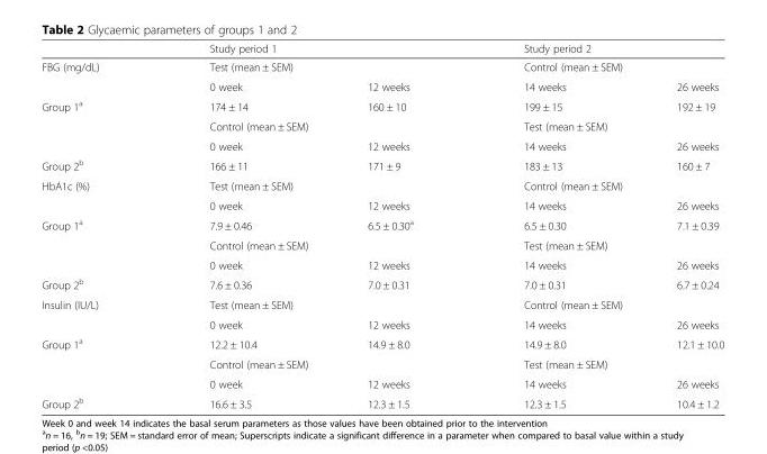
<table><thead><tr><td rowspan="3">FBG (mg/dL)</td><td rowspan="2" colspan="2">Study period 1 Test (mean ± SEM)</td><td rowspan="2" colspan="2">Study period 2 Control (mean ± SEM)</td></tr><tr></tr><tr><td>0 week</td><td>12 weeks</td><td>14 weeks</td><td>26 weeks</td></tr></thead><tbody><tr><td rowspan="3">Group 1<sup>a</sup></td><td>174 ± 14</td><td>160 ± 10</td><td>199 ± 15</td><td>192 ± 19</td></tr><tr><td colspan="2">Control (mean ± SEM)</td><td colspan="2">Test (mean ± SEM)</td></tr><tr><td>0 week</td><td>12 weeks</td><td>14 weeks</td><td>26 weeks</td></tr><tr><td>Group 2<sup>b</sup></td><td>166 ± 11</td><td>171 ± 9</td><td>183 ± 13</td><td>160 ± 7</td></tr><tr><td rowspan="2">HbA1c (%)</td><td colspan="2">Test (mean ± SEM)</td><td colspan="2">Control (mean ± SEM)</td></tr><tr><td>0 week</td><td>12 weeks</td><td>14 weeks</td><td>26 weeks</td></tr><tr><td rowspan="3">Group 1<sup>a</sup></td><td>7.9 ± 0.46</td><td>6.5 ± 0.30<sup>a</sup></td><td>6.5 ± 0.30</td><td>7.1 ± 0.39</td></tr><tr><td colspan="2">Control (mean ± SEM)</td><td colspan="2">Test (mean ± SEM)</td></tr><tr><td>0 week</td><td>12 weeks</td><td>14 weeks</td><td>26 weeks</td></tr><tr><td>Group 2<sup>b</sup></td><td>7.6 ± 0.36</td><td>7.0 ± 0.31</td><td>7.0 ± 0.31</td><td>6.7 ± 0.24</td></tr><tr><td rowspan="2">Insulin (IU/L)</td><td colspan="2">Test (mean ± SEM)</td><td colspan="2">Control (mean ± SEM)</td></tr><tr><td>0 week</td><td>12 weeks</td><td>14 weeks</td><td>26 weeks</td></tr><tr><td rowspan="3">Group 1<sup>a</sup></td><td>12.2 ± 10.4</td><td>14.9 ± 8.0</td><td>14.9 ± 8.0</td><td>12.1 ± 10.0</td></tr><tr><td colspan="2">Control (mean ± SEM)</td><td colspan="2">Test (mean ± SEM)</td></tr><tr><td>0 week</td><td>12 weeks</td><td>14 weeks</td><td>26 weeks</td></tr><tr><td>Group 2<sup>b</sup></td><td>16.6 ± 3.5</td><td>12.3 ± 1.5</td><td>12.3 ± 1.5</td><td>10.4 ± 1.2</td></tr></tbody></table>